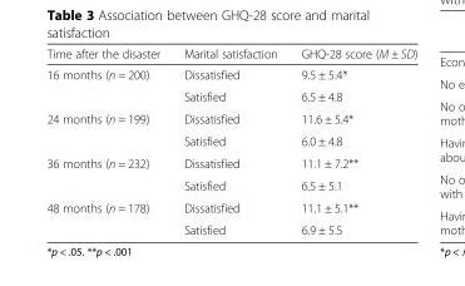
<table><thead><tr><td>Time after the disaster</td><td>Marital satisfaction</td><td>GHQ-28 score (M ± SD)</td></tr></thead><tbody><tr><td rowspan="2">16 months (n = 200)</td><td>Dissatisfied</td><td>9.5 ± 5.4*</td></tr><tr><td>Satisfied</td><td>6.5 ± 4.8</td></tr><tr><td rowspan="2">24 months (n = 199)</td><td>Dissatisfied</td><td>11.6 ± 5.4*</td></tr><tr><td>Satisfied</td><td>6.0 ± 4.8</td></tr><tr><td rowspan="2">36 months (n = 232)</td><td>Dissatisfied</td><td>11.1 ± 7.2**</td></tr><tr><td>Satisfied</td><td>6.5 ± 5.1</td></tr><tr><td rowspan="2">48 months (n = 178)</td><td>Dissatisfied</td><td>11.1 ± 5.1**</td></tr><tr><td>Satisfied</td><td>6.9 ± 5.5</td></tr></tbody></table>